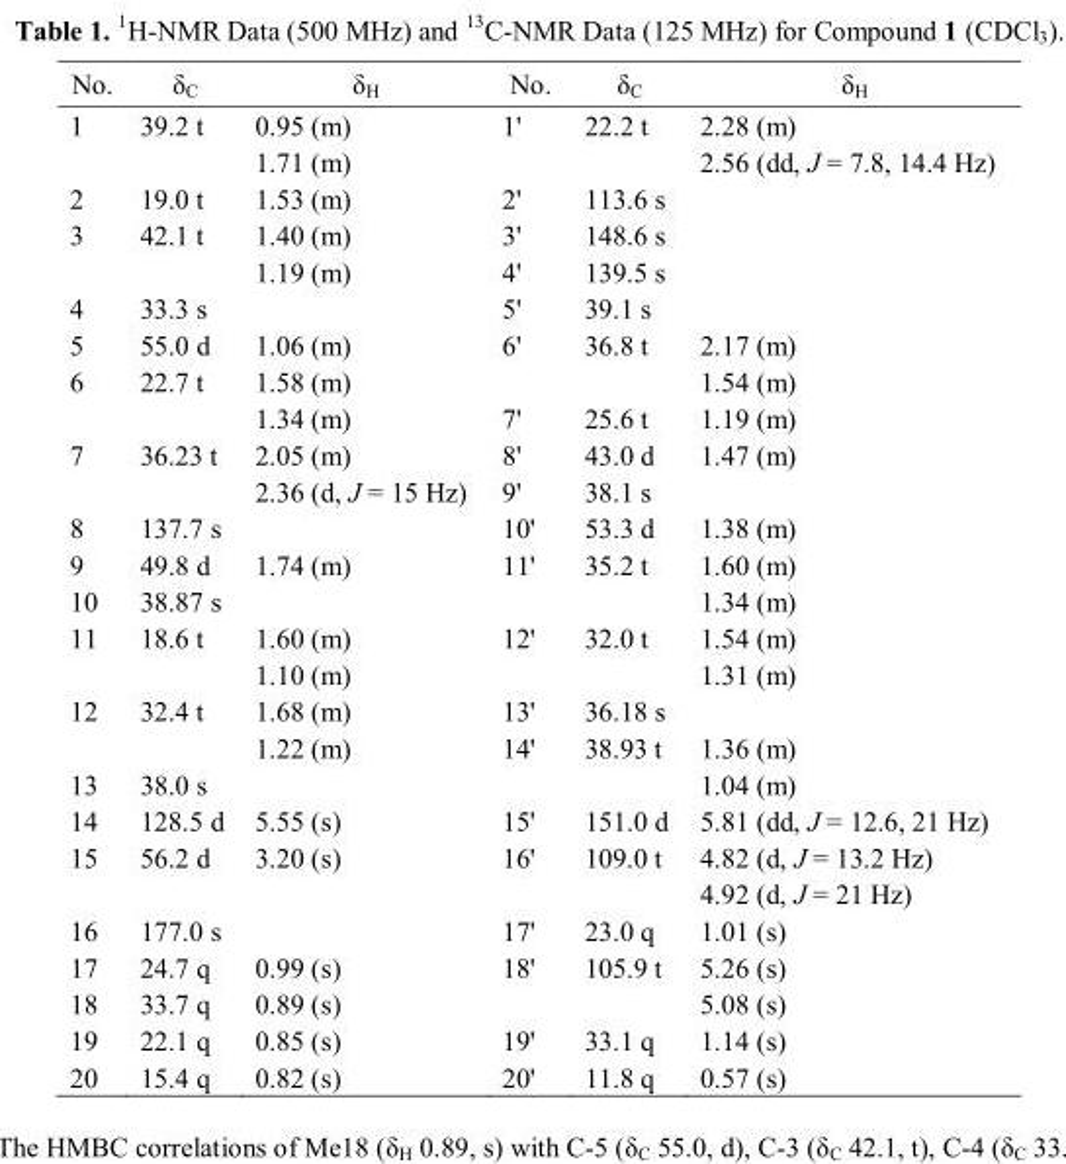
<table><thead><tr><td>No.</td><td>δ<sub>C</sub></td><td>δ<sub>H</sub></td><td>No.</td><td>δ<sub>C</sub></td><td>δ<sub>H</sub></td></tr></thead><tbody><tr><td rowspan="2">1</td><td>39.2 t</td><td>0.95 (m)</td><td>1&#x27;</td><td>22.2 t</td><td>2.28 (m)</td></tr><tr><td></td><td>1.71 (m)</td><td></td><td></td><td>2.56 (dd, J = 7.8, 14.4 Hz)</td></tr><tr><td>2</td><td>19.0 t</td><td>1.53 (m)</td><td>2&#x27;</td><td>113.6 s</td><td></td></tr><tr><td rowspan="2">3</td><td>42.1 t</td><td>1.40 (m)</td><td>3&#x27;</td><td>148.6 s</td><td></td></tr><tr><td></td><td>1.19 (m)</td><td>4&#x27;</td><td>139.5 s</td><td></td></tr><tr><td>4</td><td>33.3 s</td><td></td><td>5&#x27;</td><td>39.1 s</td><td></td></tr><tr><td>5</td><td>55.0 d</td><td>1.06 (m)</td><td>6&#x27;</td><td>36.8 t</td><td>2.17 (m)</td></tr><tr><td rowspan="2">6</td><td>22.7 t</td><td>1.58 (m)</td><td></td><td></td><td>1.54 (m)</td></tr><tr><td></td><td>1.34 (m)</td><td>7&#x27;</td><td>25.6 t</td><td>1.19 (m)</td></tr><tr><td rowspan="2">7</td><td>36.23 t</td><td>2.05 (m)</td><td>8&#x27;</td><td>43.0 d</td><td>1.47 (m)</td></tr><tr><td></td><td>2.36 (d, J = 15 Hz)</td><td>9&#x27;</td><td>38.1 s</td><td></td></tr><tr><td>8</td><td>137.7 s</td><td></td><td>10&#x27;</td><td>53.3 d</td><td>1.38 (m)</td></tr><tr><td>9</td><td>49.8 d</td><td>1.74 (m)</td><td>11&#x27;</td><td>35.2 t</td><td>1.60 (m)</td></tr><tr><td>10</td><td>38.87 s</td><td></td><td></td><td></td><td>1.34 (m)</td></tr><tr><td rowspan="2">11</td><td>18.6 t</td><td>1.60 (m)</td><td>12&#x27;</td><td>32.0 t</td><td>1.54 (m)</td></tr><tr><td></td><td>1.10 (m)</td><td></td><td></td><td>1.31 (m)</td></tr><tr><td rowspan="2">12</td><td>32.4 t</td><td>1.68 (m)</td><td>13&#x27;</td><td>36.18 s</td><td></td></tr><tr><td></td><td>1.22 (m)</td><td>14&#x27;</td><td>38.93 t</td><td>1.36 (m)</td></tr><tr><td>13</td><td>38.0 s</td><td></td><td></td><td></td><td>1.04 (m)</td></tr><tr><td>14</td><td>128.5 d</td><td>5.55 (s)</td><td>15&#x27;</td><td>151.0 d</td><td>5.81 (dd, J = 12.6, 21 Hz)</td></tr><tr><td rowspan="2">15</td><td>56.2 d</td><td>3.20 (s)</td><td>16&#x27;</td><td>109.0 t</td><td>4.82 (d, J = 13.2 Hz)</td></tr><tr><td></td><td></td><td></td><td></td><td>4.92 (d, J = 21 Hz)</td></tr><tr><td>16</td><td>177.0 s</td><td></td><td>17&#x27;</td><td>23.0 q</td><td>1.01 (s)</td></tr><tr><td>17</td><td>24.7 q</td><td>0.99 (s)</td><td>18&#x27;</td><td>105.9 t</td><td>5.26 (s)</td></tr><tr><td>18</td><td>33.7 q</td><td>0.89 (s)</td><td></td><td></td><td>5.08 (s)</td></tr><tr><td>19</td><td>22.1 q</td><td>0.85 (s)</td><td>19&#x27;</td><td>33.1 q</td><td>1.14 (s)</td></tr><tr><td>20</td><td>15.4 q</td><td>0.82 (s)</td><td>20&#x27;</td><td>11.8 q</td><td>0.57 (s)</td></tr></tbody></table>